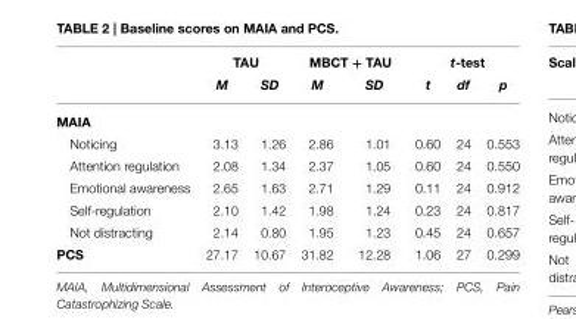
<table><thead><tr><td rowspan="2"></td><td colspan="2">TAU</td><td colspan="2">MBCT + TAU</td><td colspan="3">t-test</td></tr><tr><td>M</td><td>SD</td><td>M</td><td>SD</td><td>t</td><td>df</td><td>p</td></tr></thead><tbody><tr><td colspan="8">MAIA</td></tr><tr><td>Noticing</td><td>3.13</td><td>1.26</td><td>2.86</td><td>1.01</td><td>0.60</td><td>24</td><td>0.553</td></tr><tr><td>Attention regulation</td><td>2.08</td><td>1.34</td><td>2.37</td><td>1.05</td><td>0.60</td><td>24</td><td>0.550</td></tr><tr><td>Emotional awareness</td><td>2.65</td><td>1.63</td><td>2.71</td><td>1.29</td><td>0.11</td><td>24</td><td>0.912</td></tr><tr><td>Self-regulation</td><td>2.10</td><td>1.42</td><td>1.98</td><td>1.24</td><td>0.23</td><td>24</td><td>0.817</td></tr><tr><td>Not distracting</td><td>2.14</td><td>0.80</td><td>1.95</td><td>1.23</td><td>0.45</td><td>24</td><td>0.657</td></tr><tr><td>PCS</td><td>27.17</td><td>10.67</td><td>31.82</td><td>12.28</td><td>1.06</td><td>27</td><td>0.299</td></tr></tbody></table>